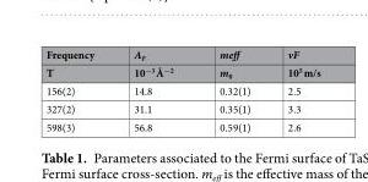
<table><thead><tr><td rowspan="2">Frequency T</td><td rowspan="2">A<sub>F</sub> 10<sup>−3</sup> Å<sup>−2</sup></td><td rowspan="2">meff m<sub>0</sub></td><td rowspan="2">vF 10<sup>5</sup> m/s</td></tr><tr></tr></thead><tbody><tr><td>156(2)</td><td>14.8</td><td>0.32(1)</td><td>2.5</td></tr><tr><td>327(2)</td><td>31.1</td><td>0.35(1)</td><td>3.3</td></tr><tr><td>598(3)</td><td>56.8</td><td>0.59(1)</td><td>2.6</td></tr></tbody></table>